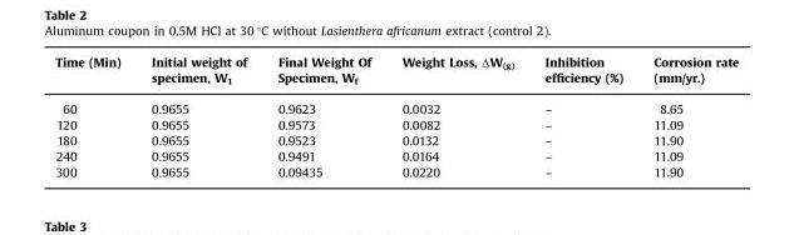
<table><thead><tr><td>Time (Min)</td><td>Initial weight of specimen, W<sub>1</sub></td><td>Final Weight Of Specimen, W<sub>f</sub></td><td>Weight Loss, ΔW(g)</td><td>Inhibition efficiency (%)</td><td>Corrosion rate (mm/yr.)</td></tr></thead><tbody><tr><td>60</td><td>0.9655</td><td>0.9623</td><td>0.0032</td><td>–</td><td>8.65</td></tr><tr><td>120</td><td>0.9655</td><td>0.9573</td><td>0.0082</td><td>–</td><td>11.09</td></tr><tr><td>180</td><td>0.9655</td><td>0.9523</td><td>0.0132</td><td>–</td><td>11.90</td></tr><tr><td>240</td><td>0.9655</td><td>0.9491</td><td>0.0164</td><td>–</td><td>11.09</td></tr><tr><td>300</td><td>0.9655</td><td>0.09435</td><td>0.0220</td><td>–</td><td>11.90</td></tr></tbody></table>